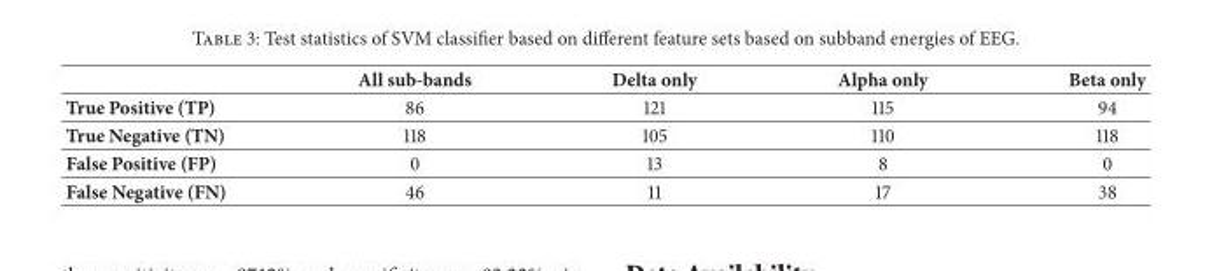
<table><thead><tr><td></td><td>All sub-bands</td><td>Delta only</td><td>Alpha only</td><td>Beta only</td></tr></thead><tbody><tr><td>True Positive (TP)</td><td>86</td><td>121</td><td>115</td><td>94</td></tr><tr><td>True Negative (TN)</td><td>118</td><td>105</td><td>110</td><td>118</td></tr><tr><td>False Positive (FP)</td><td>0</td><td>13</td><td>8</td><td>0</td></tr><tr><td>False Negative (FN)</td><td>46</td><td>11</td><td>17</td><td>38</td></tr></tbody></table>